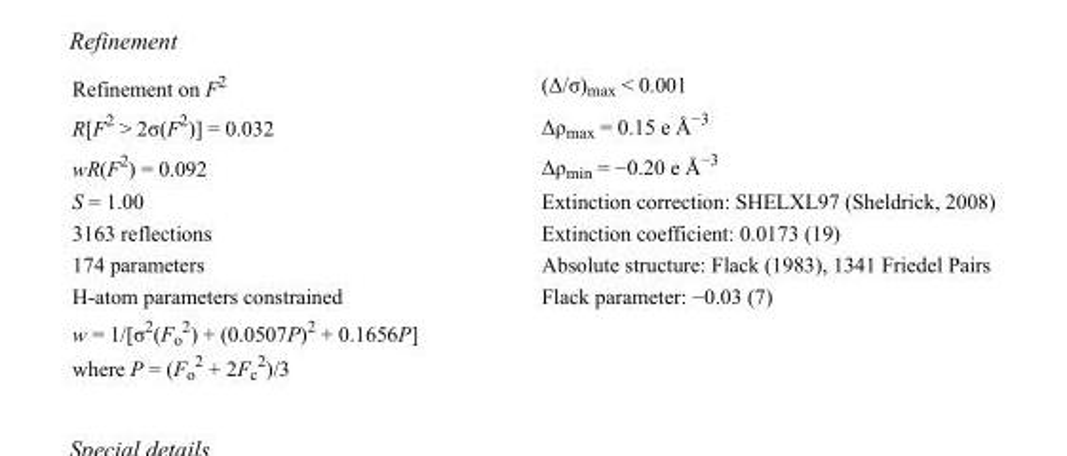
<table><tbody><tr><td>Refinement on F<sup>2</sup></td><td>(Δ/σ)<sub>max</sub> &lt; 0.001</td></tr><tr><td>R[F<sup>2</sup> &gt; 2σ(F<sup>2</sup>)] = 0.032</td><td>Δρ<sub>max</sub> = 0.15 e Å<sup>−3</sup></td></tr><tr><td>wR(F<sup>2</sup>) = 0.092</td><td>Δρ<sub>min</sub> = −0.20 e Å<sup>−3</sup></td></tr><tr><td>S = 1.00</td><td>Extinction correction: SHELXL97 (Sheldrick, 2008)</td></tr><tr><td>3163 reflections</td><td>Extinction coefficient: 0.0173 (19)</td></tr><tr><td>174 parameters</td><td>Absolute structure: Flack (1983), 1341 Friedel Pairs</td></tr><tr><td>H-atom parameters constrained</td><td>Flack parameter: −0.03 (7)</td></tr><tr><td>w = 1/[σ<sup>2</sup>(F<sub>o</sub> <sup>2</sup>) + (0.0507P)<sup>2</sup> + 0.1656P] where P = (F<sub>o</sub> <sup>2</sup> + 2F<sub>c</sub> <sup>2</sup>)/3</td><td></td></tr></tbody></table>